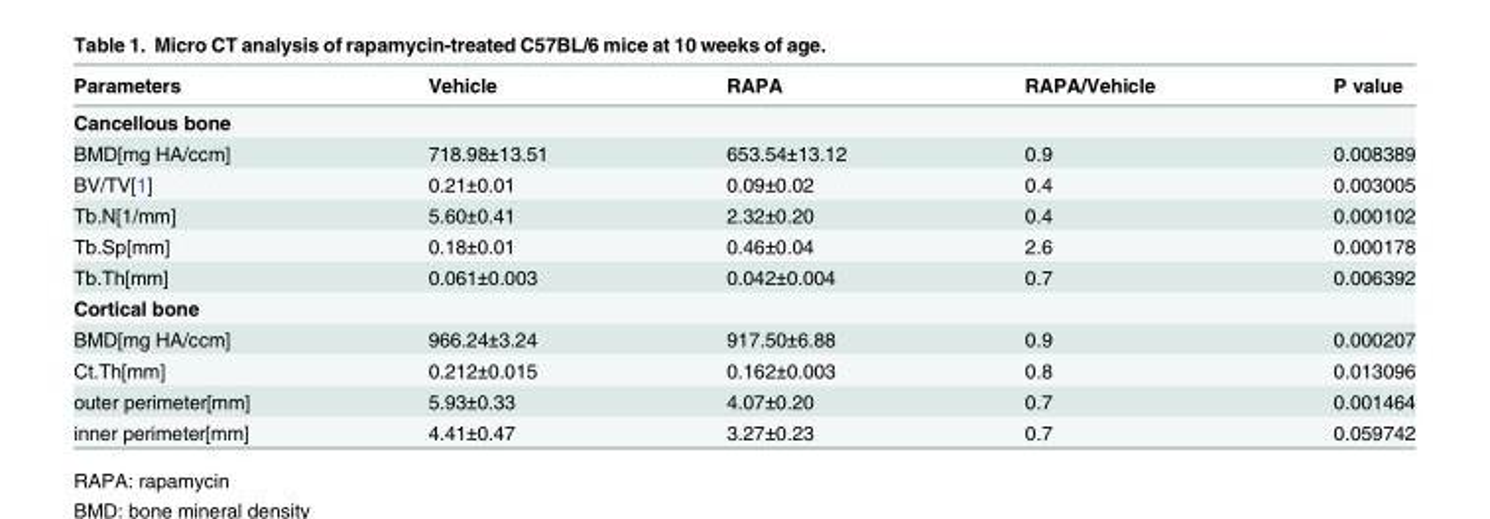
<table><thead><tr><td>Parameters</td><td>Vehicle</td><td>RAPA</td><td>RAPA/Vehicle</td><td>P value</td></tr></thead><tbody><tr><td colspan="5">Cancellous bone</td></tr><tr><td>BMD[mg HA/ccm]</td><td>718.98±13.51</td><td>653.54±13.12</td><td>0.9</td><td>0.008389</td></tr><tr><td>BV/TV[1]</td><td>0.21±0.01</td><td>0.09±0.02</td><td>0.4</td><td>0.003005</td></tr><tr><td>Tb.N[1/mm]</td><td>5.60±0.41</td><td>2.32±0.20</td><td>0.4</td><td>0.000102</td></tr><tr><td>Tb.Sp[mm]</td><td>0.18±0.01</td><td>0.46±0.04</td><td>2.6</td><td>0.000178</td></tr><tr><td>Tb.Th[mm]</td><td>0.061±0.003</td><td>0.042±0.004</td><td>0.7</td><td>0.006392</td></tr><tr><td colspan="5">Cortical bone</td></tr><tr><td>BMD[mg HA/ccm]</td><td>966.24±3.24</td><td>917.50±6.88</td><td>0.9</td><td>0.000207</td></tr><tr><td>Ct.Th[mm]</td><td>0.212±0.015</td><td>0.162±0.003</td><td>0.8</td><td>0.013096</td></tr><tr><td>outer perimeter[mm]</td><td>5.93±0.33</td><td>4.07±0.20</td><td>0.7</td><td>0.001464</td></tr><tr><td>inner perimeter[mm]</td><td>4.41±0.47</td><td>3.27±0.23</td><td>0.7</td><td>0.059742</td></tr></tbody></table>